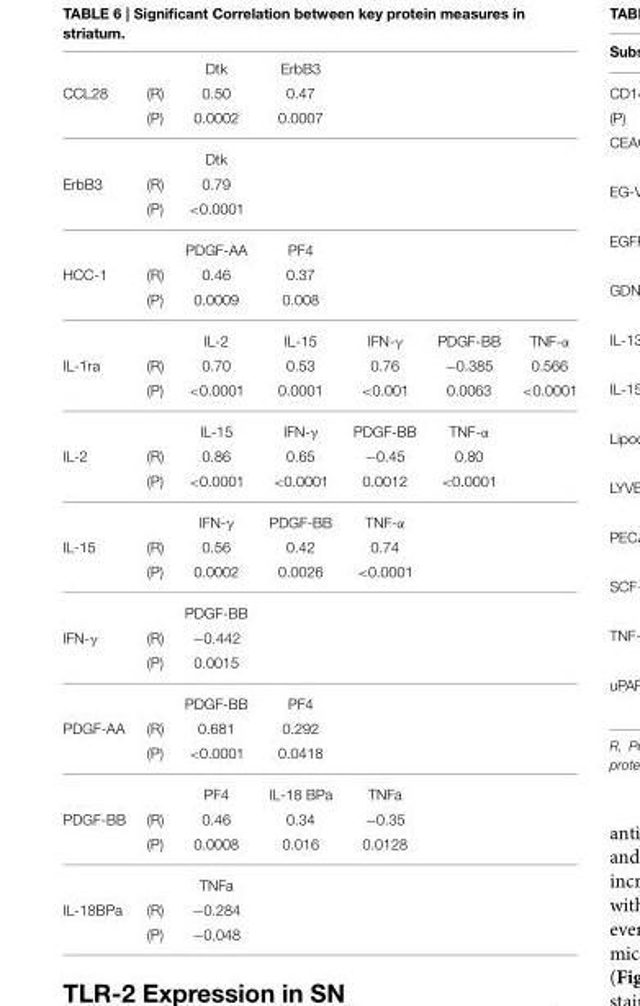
<table><thead><tr><td></td><td></td><td>Dtk</td><td>ErbB3</td><td></td><td></td><td></td></tr></thead><tbody><tr><td rowspan="3">CCL28</td><td>(R)</td><td>0.50</td><td>0.47</td><td></td><td></td><td></td></tr><tr><td>(P)</td><td>0.0002</td><td>0.0007</td><td></td><td></td><td></td></tr><tr><td></td><td>Dtk</td><td></td><td></td><td></td><td></td></tr><tr><td rowspan="3">ErbB3</td><td>(R)</td><td>0.79</td><td></td><td></td><td></td><td></td></tr><tr><td>(P)</td><td>&lt;0.0001</td><td></td><td></td><td></td><td></td></tr><tr><td></td><td>PDGF-AA</td><td>PF4</td><td></td><td></td><td></td></tr><tr><td rowspan="3">HCC-1</td><td>(R)</td><td>0.46</td><td>0.37</td><td></td><td></td><td></td></tr><tr><td>(P)</td><td>0.0009</td><td>0.008</td><td></td><td></td><td></td></tr><tr><td></td><td>IL-2</td><td>IL-15</td><td>IFN-γ</td><td>PDGF-BB</td><td>TNF-α</td></tr><tr><td rowspan="3">IL-1ra</td><td>(R)</td><td>0.70</td><td>0.53</td><td>0.76</td><td>−0.385</td><td>0.566</td></tr><tr><td>(P)</td><td>&lt;0.0001</td><td>0.0001</td><td>&lt;0.001</td><td>0.0063</td><td>&lt;0.0001</td></tr><tr><td></td><td>IL-15</td><td>IFN-γ</td><td>PDGF-BB</td><td>TNF-α</td><td></td></tr><tr><td rowspan="3">IL-2</td><td>(R)</td><td>0.86</td><td>0.65</td><td>−0.45</td><td>0.80</td><td></td></tr><tr><td>(P)</td><td>&lt;0.0001</td><td>&lt;0.0001</td><td>0.0012</td><td>&lt;0.0001</td><td></td></tr><tr><td></td><td>IFN-γ</td><td>PDGF-BB</td><td>TNF-α</td><td></td><td></td></tr><tr><td rowspan="3">IL-15</td><td>(R)</td><td>0.56</td><td>0.42</td><td>0.74</td><td></td><td></td></tr><tr><td>(P)</td><td>0.0002</td><td>0.0026</td><td>&lt;0.0001</td><td></td><td></td></tr><tr><td></td><td>PDGF-BB</td><td></td><td></td><td></td><td></td></tr><tr><td rowspan="3">IFN-γ</td><td>(R)</td><td>−0.442</td><td></td><td></td><td></td><td></td></tr><tr><td>(P)</td><td>0.0015</td><td></td><td></td><td></td><td></td></tr><tr><td></td><td>PDGF-BB</td><td>PF4</td><td></td><td></td><td></td></tr><tr><td rowspan="3">PDGF-AA</td><td>(R)</td><td>0.681</td><td>0.292</td><td></td><td></td><td></td></tr><tr><td>(P)</td><td>&lt;0.0001</td><td>0.0418</td><td></td><td></td><td></td></tr><tr><td></td><td>PF4</td><td>IL-18 BPa</td><td>TNFa</td><td></td><td></td></tr><tr><td rowspan="3">PDGF-BB</td><td>(R)</td><td>0.46</td><td>0.34</td><td>−0.35</td><td></td><td></td></tr><tr><td>(P)</td><td>0.0008</td><td>0.016</td><td>0.0128</td><td></td><td></td></tr><tr><td></td><td>TNFa</td><td></td><td></td><td></td><td></td></tr><tr><td rowspan="2">IL-18BPa</td><td>(R)</td><td>−0.284</td><td></td><td></td><td></td><td></td></tr><tr><td>(P)</td><td>−0.048</td><td></td><td></td><td></td><td></td></tr></tbody></table>